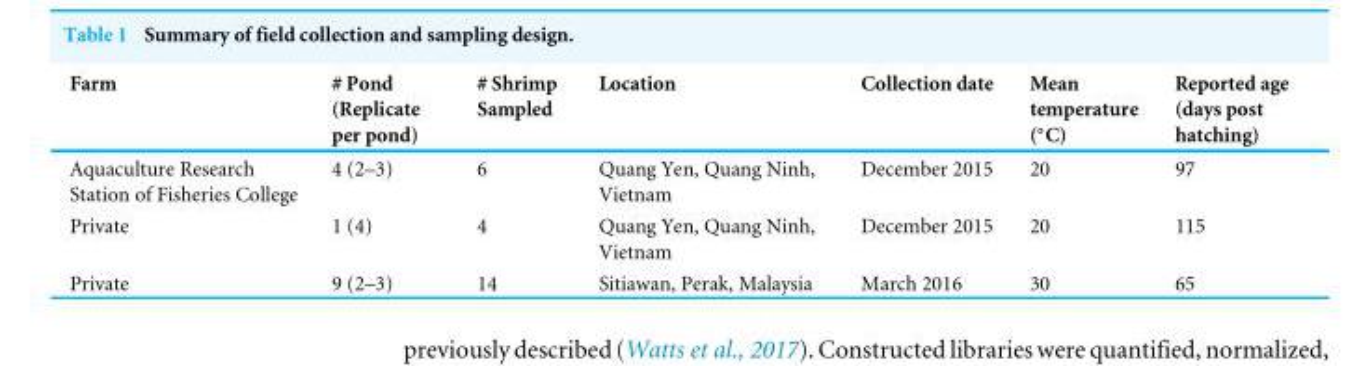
<table><thead><tr><td>Farm</td><td># Pond (Replicate per pond)</td><td># Shrimp Sampled</td><td>Location</td><td>Collection date</td><td>Mean temperature (◦C)</td><td>Reported age (days post hatching)</td></tr></thead><tbody><tr><td>Aquaculture Research Station of Fisheries College</td><td>4 (2–3)</td><td>6</td><td>Quang Yen, Quang Ninh, Vietnam</td><td>December 2015</td><td>20</td><td>97</td></tr><tr><td>Private</td><td>1 (4)</td><td>4</td><td>Quang Yen, Quang Ninh, Vietnam</td><td>December 2015</td><td>20</td><td>115</td></tr><tr><td>Private</td><td>9 (2–3)</td><td>14</td><td>Sitiawan, Perak, Malaysia</td><td>March 2016</td><td>30</td><td>65</td></tr></tbody></table>